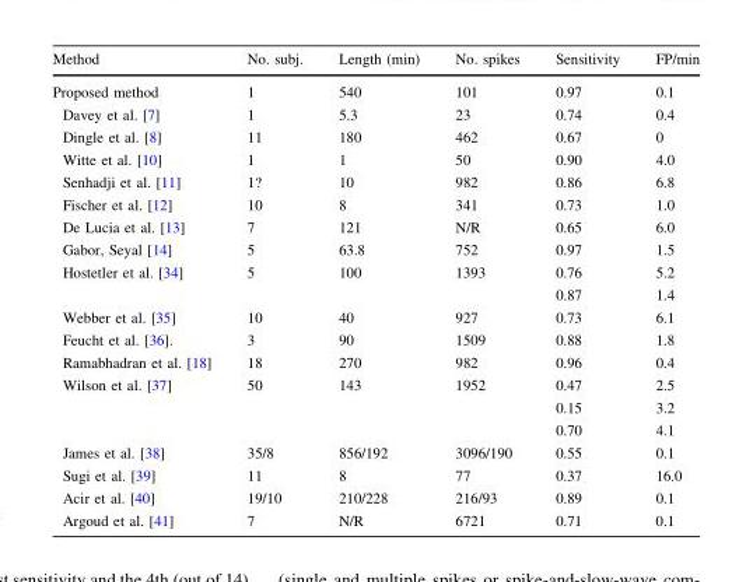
<table><thead><tr><td>Method</td><td>No. subj.</td><td>Length (min)</td><td>No. spikes</td><td>Sensitivity</td><td>FP/min</td></tr></thead><tbody><tr><td>Proposed method</td><td>1</td><td>540</td><td>101</td><td>0.97</td><td>0.1</td></tr><tr><td>Davey et al. [7]</td><td>1</td><td>5.3</td><td>23</td><td>0.74</td><td>0.4</td></tr><tr><td>Dingle et al. [8]</td><td>11</td><td>180</td><td>462</td><td>0.67</td><td>0</td></tr><tr><td>Witte et al. [10]</td><td>1</td><td>1</td><td>50</td><td>0.90</td><td>4.0</td></tr><tr><td>Senhadji et al. [11]</td><td>1?</td><td>10</td><td>982</td><td>0.86</td><td>6.8</td></tr><tr><td>Fischer et al. [12]</td><td>10</td><td>8</td><td>341</td><td>0.73</td><td>1.0</td></tr><tr><td>De Lucia et al. [13]</td><td>7</td><td>121</td><td>N/R</td><td>0.65</td><td>6.0</td></tr><tr><td>Gabor, Seyal [14]</td><td>5</td><td>63.8</td><td>752</td><td>0.97</td><td>1.5</td></tr><tr><td>Hostetler et al. [34]</td><td>5</td><td>100</td><td>1393</td><td>0.76 0.87</td><td>5.2 1.4</td></tr><tr><td>Webber et al. [35]</td><td>10</td><td>40</td><td>927</td><td>0.73</td><td>6.1</td></tr><tr><td>Feucht et al. [36].</td><td>3</td><td>90</td><td>1509</td><td>0.88</td><td>1.8</td></tr><tr><td>Ramabhadran et al. [18]</td><td>18</td><td>270</td><td>982</td><td>0.96</td><td>0.4</td></tr><tr><td>Wilson et al. [37]</td><td>50</td><td>143</td><td>1952</td><td>0.47 0.15 0.70</td><td>2.5 3.2 4.1</td></tr><tr><td>James et al. [38]</td><td>35/8</td><td>856/192</td><td>3096/190</td><td>0.55</td><td>0.1</td></tr><tr><td>Sugi et al. [39]</td><td>11</td><td>8</td><td>77</td><td>0.37</td><td>16.0</td></tr><tr><td>Acir et al. [40]</td><td>19/10</td><td>210/228</td><td>216/93</td><td>0.89</td><td>0.1</td></tr><tr><td>Argoud et al. [41]</td><td>7</td><td>N/R</td><td>6721</td><td>0.71</td><td>0.1</td></tr></tbody></table>